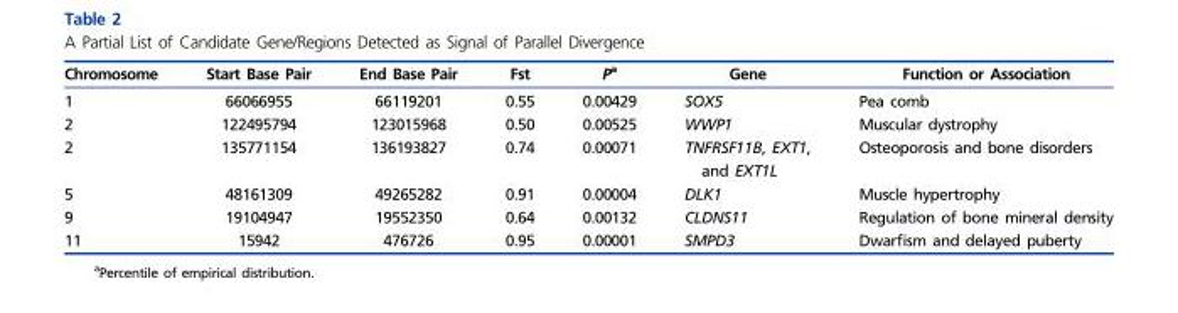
<table><thead><tr><td>Chromosome</td><td>Start Base Pair</td><td>End Base Pair</td><td>Fst</td><td>P<sup>a</sup></td><td>Gene</td><td>Function or Association</td></tr></thead><tbody><tr><td>1</td><td>66066955</td><td>66119201</td><td>0.55</td><td>0.00429</td><td>SOX5</td><td>Pea comb</td></tr><tr><td>2</td><td>122495794</td><td>123015968</td><td>0.50</td><td>0.00525</td><td>WWP1</td><td>Muscular dystrophy</td></tr><tr><td>2</td><td>135771154</td><td>136193827</td><td>0.74</td><td>0.00071</td><td>TNFRSF11B, EXT1, and EXT1L</td><td>Osteoporosis and bone disorders</td></tr><tr><td>5</td><td>48161309</td><td>49265282</td><td>0.91</td><td>0.00004</td><td>DLK1</td><td>Muscle hypertrophy</td></tr><tr><td>9</td><td>19104947</td><td>19552350</td><td>0.64</td><td>0.00132</td><td>CLDNS11</td><td>Regulation of bone mineral density</td></tr><tr><td>11</td><td>15942</td><td>476726</td><td>0.95</td><td>0.00001</td><td>SMPD3</td><td>Dwarfism and delayed puberty</td></tr></tbody></table>